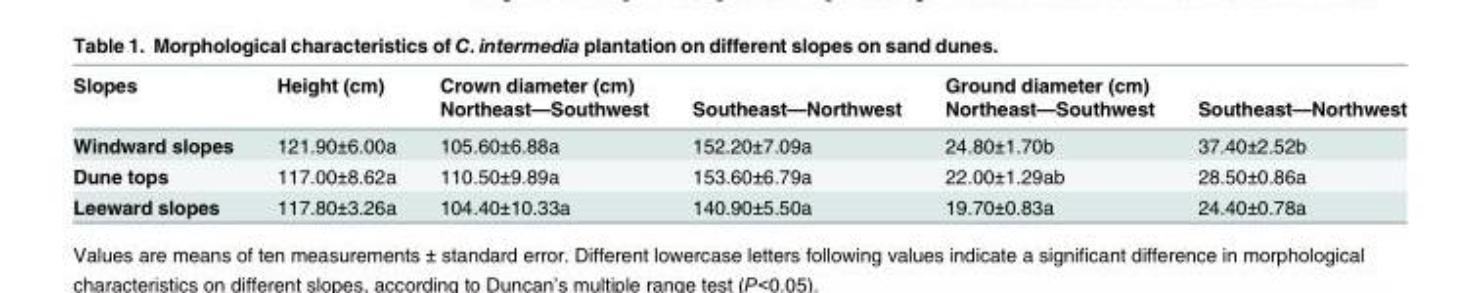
<table><thead><tr><td rowspan="2">Slopes</td><td rowspan="2">Height (cm)</td><td rowspan="2">Crown diameter (cm) Northeast—Southwest</td><td rowspan="2">Southeast—Northwest</td><td rowspan="2">Ground diameter (cm) Northeast—Southwest</td><td rowspan="2">Southeast—Northwest</td></tr><tr></tr></thead><tbody><tr><td>Windward slopes</td><td>121.90±6.00a</td><td>105.60±6.88a</td><td>152.20±7.09a</td><td>24.80±1.70b</td><td>37.40±2.52b</td></tr><tr><td>Dune tops</td><td>117.00±8.62a</td><td>110.50±9.89a</td><td>153.60±6.79a</td><td>22.00±1.29ab</td><td>28.50±0.86a</td></tr><tr><td>Leeward slopes</td><td>117.80±3.26a</td><td>104.40±10.33a</td><td>140.90±5.50a</td><td>19.70±0.83a</td><td>24.40±0.78a</td></tr></tbody></table>